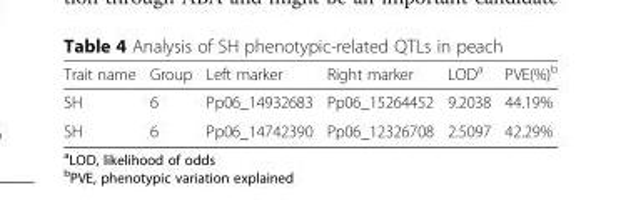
<table><thead><tr><td>Trait name</td><td>Group</td><td>Left marker</td><td>Right marker</td><td>LOD<sup>a</sup></td><td>PVE(%)<sup>b</sup></td></tr></thead><tbody><tr><td>SH</td><td>6</td><td>Pp06_14932683</td><td>Pp06_15264452</td><td>9.2038</td><td>44.19%</td></tr><tr><td>SH</td><td>6</td><td>Pp06_14742390</td><td>Pp06_12326708</td><td>2.5097</td><td>42.29%</td></tr></tbody></table>